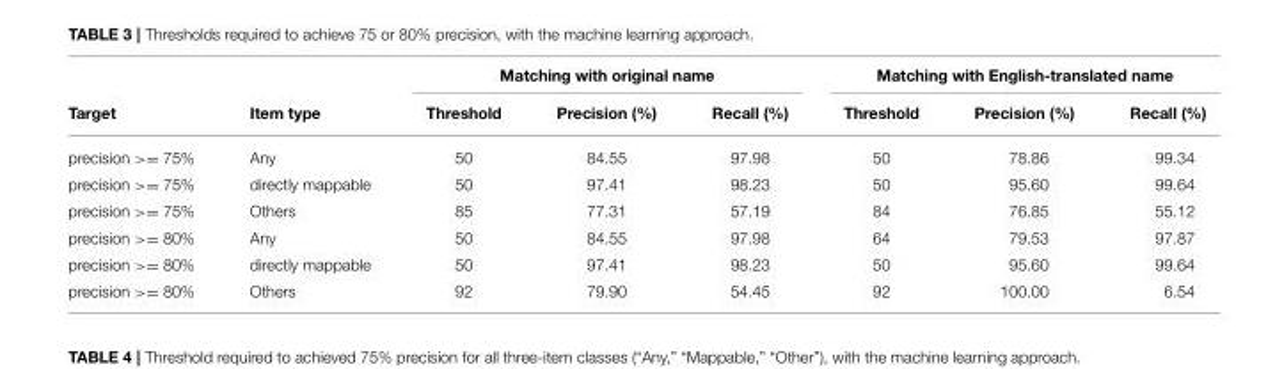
<table><thead><tr><td rowspan="2">Target</td><td rowspan="2">Item type</td><td colspan="3">Matching with original name</td><td colspan="3">Matching with English-translated name</td></tr><tr><td>Threshold</td><td>Precision (%)</td><td>Recall (%)</td><td>Threshold</td><td>Precision (%)</td><td>Recall (%)</td></tr></thead><tbody><tr><td>precision &gt;= 75%</td><td>Any</td><td>50</td><td>84.55</td><td>97.98</td><td>50</td><td>78.86</td><td>99.34</td></tr><tr><td>precision &gt;= 75%</td><td>directly mappable</td><td>50</td><td>97.41</td><td>98.23</td><td>50</td><td>95.60</td><td>99.64</td></tr><tr><td>precision &gt;= 75%</td><td>Others</td><td>85</td><td>77.31</td><td>57.19</td><td>84</td><td>76.85</td><td>55.12</td></tr><tr><td>precision &gt;= 80%</td><td>Any</td><td>50</td><td>84.55</td><td>97.98</td><td>64</td><td>79.53</td><td>97.87</td></tr><tr><td>precision &gt;= 80%</td><td>directly mappable</td><td>50</td><td>97.41</td><td>98.23</td><td>50</td><td>95.60</td><td>99.64</td></tr><tr><td>precision &gt;= 80%</td><td>Others</td><td>92</td><td>79.90</td><td>54.45</td><td>92</td><td>100.00</td><td>6.54</td></tr></tbody></table>